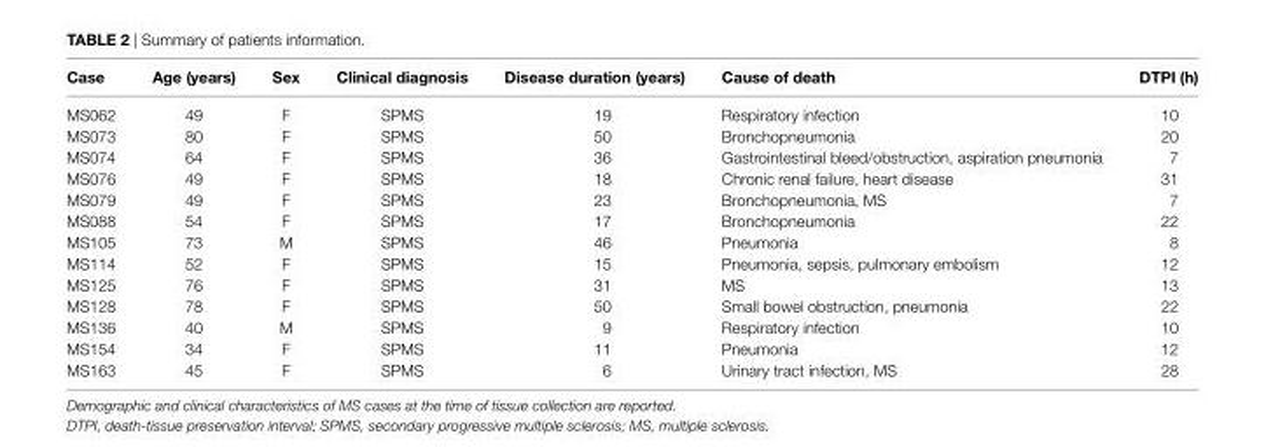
<table><thead><tr><td>case</td><td>age (years)</td><td>sex</td><td>clinical diagnosis</td><td>Disease duration (years)</td><td>cause of death</td><td>DTPi (h)</td></tr></thead><tbody><tr><td>MS062</td><td>49</td><td>F</td><td>SPMS</td><td>19</td><td>Respiratory infection</td><td>10</td></tr><tr><td>MS073</td><td>80</td><td>F</td><td>SPMS</td><td>50</td><td>Bronchopneumonia</td><td>20</td></tr><tr><td>MS074</td><td>64</td><td>F</td><td>SPMS</td><td>36</td><td>Gastrointestinal bleed/obstruction, aspiration pneumonia</td><td>7</td></tr><tr><td>MS076</td><td>49</td><td>F</td><td>SPMS</td><td>18</td><td>Chronic renal failure, heart disease</td><td>31</td></tr><tr><td>MS079</td><td>49</td><td>F</td><td>SPMS</td><td>23</td><td>Bronchopneumonia, MS</td><td>7</td></tr><tr><td>MS088</td><td>54</td><td>F</td><td>SPMS</td><td>17</td><td>Bronchopneumonia</td><td>22</td></tr><tr><td>MS105</td><td>73</td><td>M</td><td>SPMS</td><td>46</td><td>Pneumonia</td><td>8</td></tr><tr><td>MS114</td><td>52</td><td>F</td><td>SPMS</td><td>15</td><td>Pneumonia, sepsis, pulmonary embolism</td><td>12</td></tr><tr><td>MS125</td><td>76</td><td>F</td><td>SPMS</td><td>31</td><td>MS</td><td>13</td></tr><tr><td>MS128</td><td>78</td><td>F</td><td>SPMS</td><td>50</td><td>Small bowel obstruction, pneumonia</td><td>22</td></tr><tr><td>MS136</td><td>40</td><td>M</td><td>SPMS</td><td>9</td><td>Respiratory infection</td><td>10</td></tr><tr><td>MS154</td><td>34</td><td>F</td><td>SPMS</td><td>11</td><td>Pneumonia</td><td>12</td></tr><tr><td>MS163</td><td>45</td><td>F</td><td>SPMS</td><td>6</td><td>Urinary tract infection, MS</td><td>28</td></tr></tbody></table>